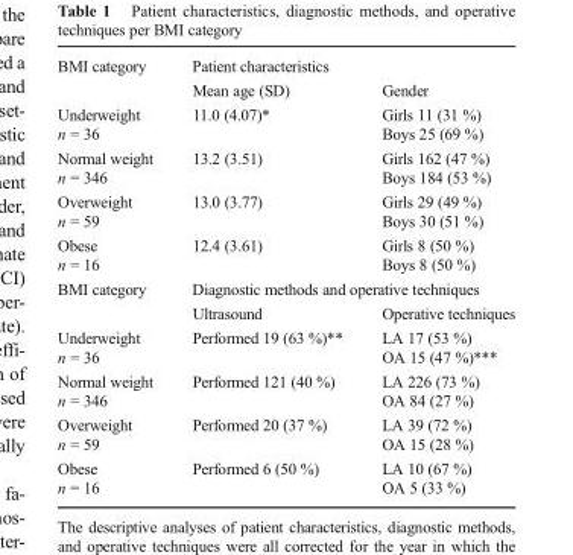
<table><tbody><tr><td rowspan="2">BMI category</td><td colspan="2">Patient characteristics</td></tr><tr><td>Mean age (SD)</td><td>Gender</td></tr><tr><td>Underweight n = 36</td><td>11.0 (4.07)*</td><td>Girls 11 (31 %) Boys 25 (69 %)</td></tr><tr><td>Normal weight n = 346</td><td>13.2 (3.51)</td><td>Girls 162 (47 %) Boys 184 (53 %)</td></tr><tr><td>Overweight n = 59</td><td>13.0 (3.77)</td><td>Girls 29 (49 %) Boys 30 (51 %)</td></tr><tr><td>Obese n = 16</td><td>12.4 (3.61)</td><td>Girls 8 (50 %) Boys 8 (50 %)</td></tr><tr><td rowspan="2">BMI category</td><td colspan="2">Diagnostic methods and operative techniques</td></tr><tr><td>Ultrasound</td><td>Operative techniques</td></tr><tr><td>Underweight n = 36</td><td>Performed 19 (63 %)**</td><td>LA 17 (53 %) OA 15 (47 %)***</td></tr><tr><td>Normal weight n = 346</td><td>Performed 121 (40 %)</td><td>LA 226 (73 %) OA 84 (27 %)</td></tr><tr><td>Overweight n = 59</td><td>Performed 20 (37 %)</td><td>LA 39 (72 %) OA 15 (28 %)</td></tr><tr><td>Obese n = 16</td><td>Performed 6 (50 %)</td><td>LA 10 (67 %) OA 5 (33 %)</td></tr></tbody></table>